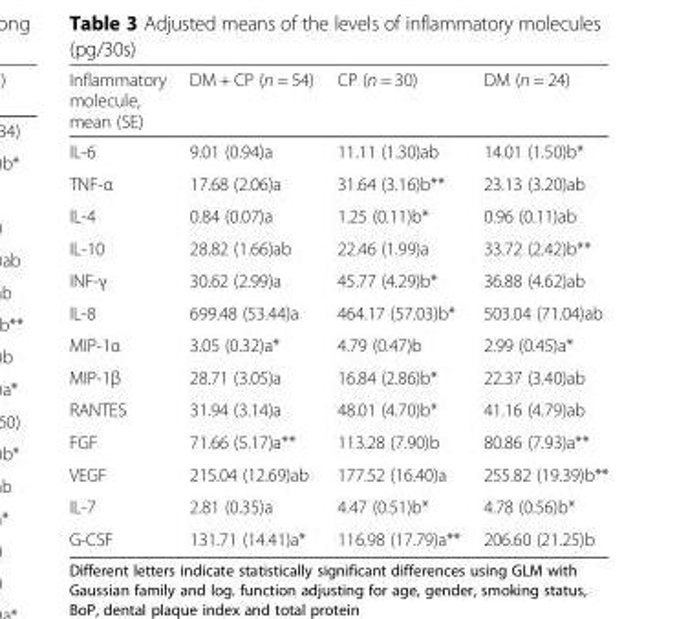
<table><thead><tr><td>Inflammatory molecule, mean (SE)</td><td>DM + CP (n = 54)</td><td>CP (n = 30)</td><td>DM (n = 24)</td></tr></thead><tbody><tr><td>IL-6</td><td>9.01 (0.94)a</td><td>11.11 (1.30)ab</td><td>14.01 (1.50)b*</td></tr><tr><td>TNF-α</td><td>17.68 (2.06)a</td><td>31.64 (3.16)b**</td><td>23.13 (3.20)ab</td></tr><tr><td>IL-4</td><td>0.84 (0.07)a</td><td>1.25 (0.11)b*</td><td>0.96 (0.11)ab</td></tr><tr><td>IL-10</td><td>28.82 (1.66)ab</td><td>22.46 (1.99)a</td><td>33.72 (2.42)b**</td></tr><tr><td>INF-γ</td><td>30.62 (2.99)a</td><td>45.77 (4.29)b*</td><td>36.88 (4.62)ab</td></tr><tr><td>IL-8</td><td>699.48 (53.44)a</td><td>464.17 (57.03)b*</td><td>503.04 (71.04)ab</td></tr><tr><td>MIP-1α</td><td>3.05 (0.32)a*</td><td>4.79 (0.47)b</td><td>2.99 (0.45)a*</td></tr><tr><td>MIP-1β</td><td>28.71 (3.05)a</td><td>16.84 (2.86)b*</td><td>22.37 (3.40)ab</td></tr><tr><td>RANTES</td><td>31.94 (3.14)a</td><td>48.01 (4.70)b*</td><td>41.16 (4.79)ab</td></tr><tr><td>FGF</td><td>71.66 (5.17)a**</td><td>113.28 (7.90)b</td><td>80.86 (7.93)a**</td></tr><tr><td>VEGF</td><td>215.04 (12.69)ab</td><td>177.52 (16.40)a</td><td>255.82 (19.39)b**</td></tr><tr><td>IL-7</td><td>2.81 (0.35)a</td><td>4.47 (0.51)b*</td><td>4.78 (0.56)b*</td></tr><tr><td>G-CSF</td><td>131.71 (14.41)a*</td><td>116.98 (17.79)a**</td><td>206.60 (21.25)b</td></tr></tbody></table>